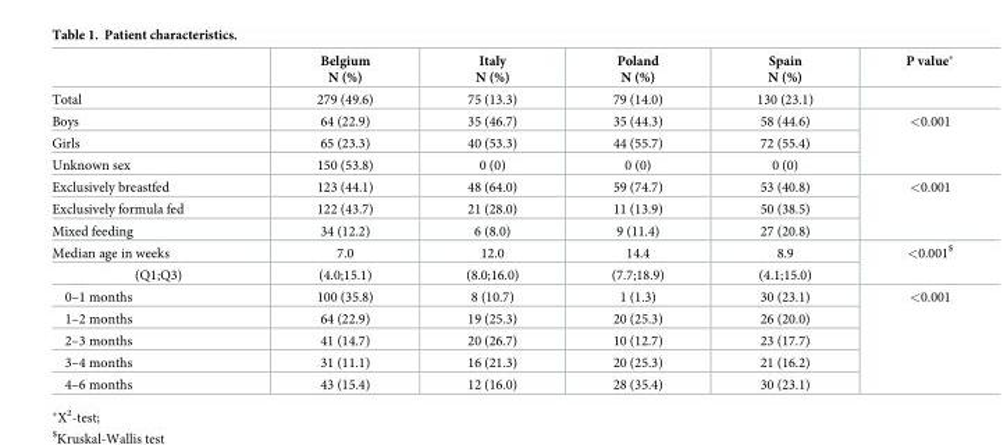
<table><thead><tr><td></td><td>Belgium N (%)</td><td>Italy N (%)</td><td>Poland N (%)</td><td>Spain N (%)</td><td>P value*</td></tr></thead><tbody><tr><td>Total</td><td>279 (49.6)</td><td>75 (13.3)</td><td>79 (14.0)</td><td>130 (23.1)</td><td></td></tr><tr><td>Boys</td><td>64 (22.9)</td><td>35 (46.7)</td><td>35 (44.3)</td><td>58 (44.6)</td><td rowspan="3">&lt;0.001</td></tr><tr><td>Girls</td><td>65 (23.3)</td><td>40 (53.3)</td><td>44 (55.7)</td><td>72 (55.4)</td></tr><tr><td>Unknown sex</td><td>150 (53.8)</td><td>0 (0)</td><td>0 (0)</td><td>0 (0)</td></tr><tr><td>Exclusively breastfed</td><td>123 (44.1)</td><td>48 (64.0)</td><td>59 (74.7)</td><td>53 (40.8)</td><td rowspan="3">&lt;0.001</td></tr><tr><td>Exclusively formula fed</td><td>122 (43.7)</td><td>21 (28.0)</td><td>11 (13.9)</td><td>50 (38.5)</td></tr><tr><td>Mixed feeding</td><td>34 (12.2)</td><td>6 (8.0)</td><td>9 (11.4)</td><td>27 (20.8)</td></tr><tr><td>Median age in weeks</td><td>7.0</td><td>12.0</td><td>14.4</td><td>8.9</td><td rowspan="2">&lt;0.001<sup>$</sup></td></tr><tr><td>(Q1;Q3)</td><td>(4.0;15.1)</td><td>(8.0;16.0)</td><td>(7.7;18.9)</td><td>(4.1;15.0)</td></tr><tr><td>0–1 months</td><td>100 (35.8)</td><td>8 (10.7)</td><td>1 (1.3)</td><td>30 (23.1)</td><td rowspan="5">&lt;0.001</td></tr><tr><td>1–2 months</td><td>64 (22.9)</td><td>19 (25.3)</td><td>20 (25.3)</td><td>26 (20.0)</td></tr><tr><td>2–3 months</td><td>41 (14.7)</td><td>20 (26.7)</td><td>10 (12.7)</td><td>23 (17.7)</td></tr><tr><td>3–4 months</td><td>31 (11.1)</td><td>16 (21.3)</td><td>20 (25.3)</td><td>21 (16.2)</td></tr><tr><td>4–6 months</td><td>43 (15.4)</td><td>12 (16.0)</td><td>28 (35.4)</td><td>30 (23.1)</td></tr></tbody></table>